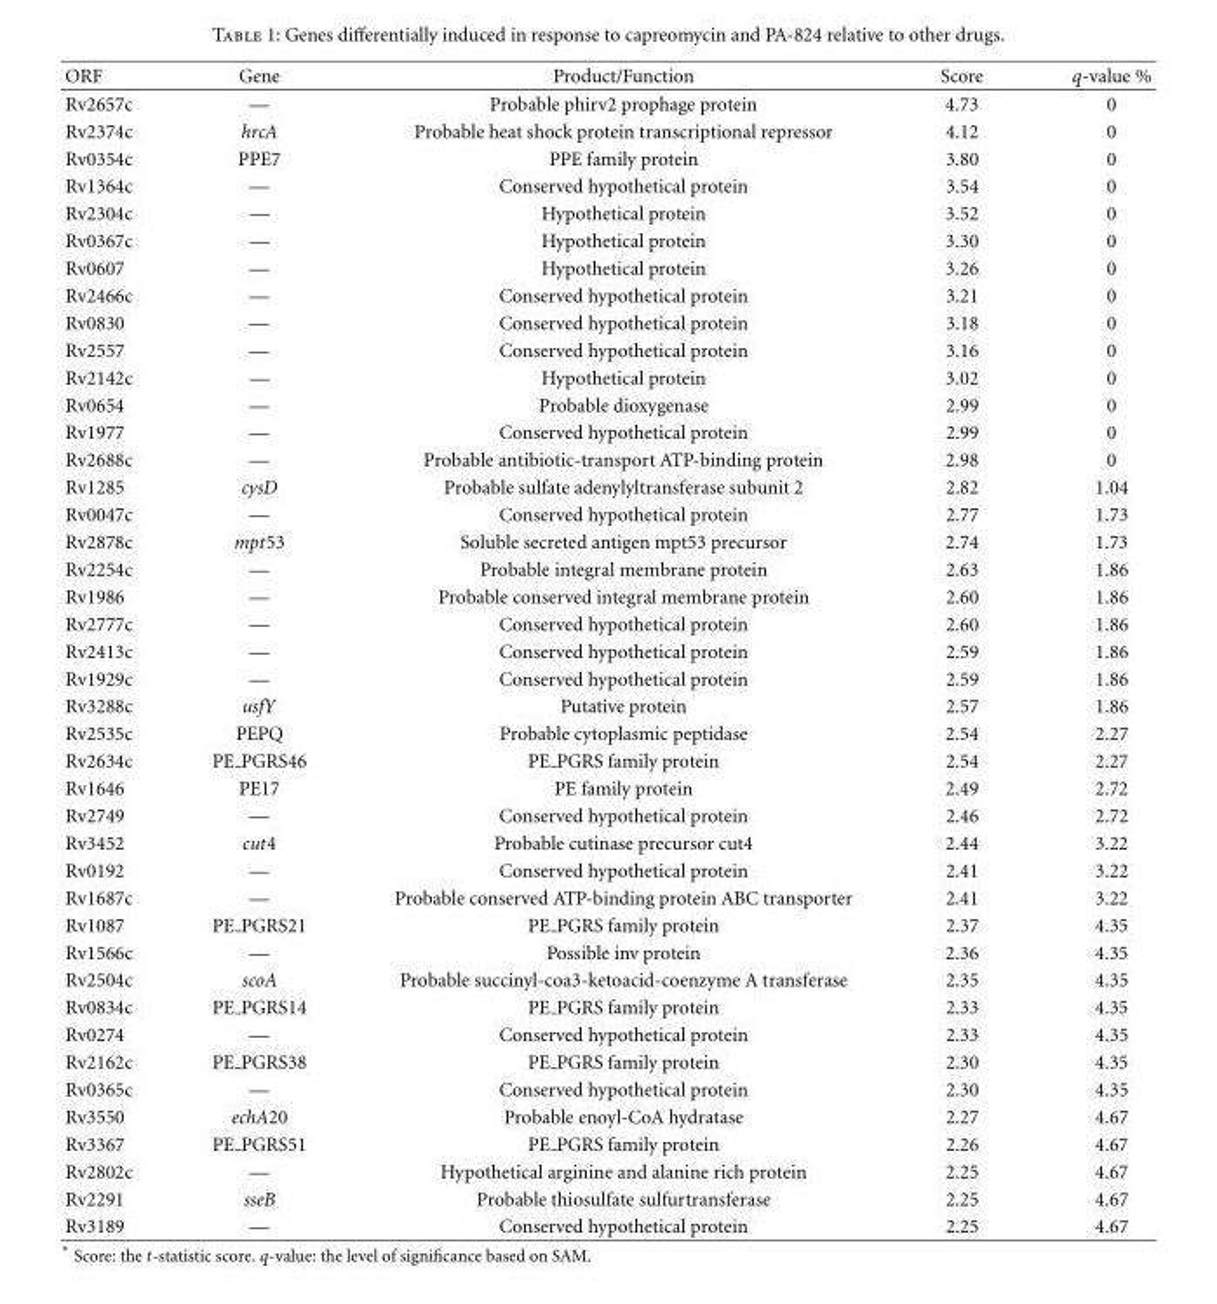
<table><thead><tr><td>ORF</td><td>Gene</td><td>Product/Function</td><td>Score</td><td>q-value %</td></tr></thead><tbody><tr><td>Rv2657c</td><td>—</td><td>Probable phirv2 prophage protein</td><td>4.73</td><td>0</td></tr><tr><td>Rv2374c</td><td>hrcA</td><td>Probable heat shock protein transcriptional repressor</td><td>4.12</td><td>0</td></tr><tr><td>Rv0354c</td><td>PPE7</td><td>PPE family protein</td><td>3.80</td><td>0</td></tr><tr><td>Rv1364c</td><td>—</td><td>Conserved hypothetical protein</td><td>3.54</td><td>0</td></tr><tr><td>Rv2304c</td><td>—</td><td>Hypothetical protein</td><td>3.52</td><td>0</td></tr><tr><td>Rv0367c</td><td>—</td><td>Hypothetical protein</td><td>3.30</td><td>0</td></tr><tr><td>Rv0607</td><td>—</td><td>Hypothetical protein</td><td>3.26</td><td>0</td></tr><tr><td>Rv2466c</td><td>—</td><td>Conserved hypothetical protein</td><td>3.21</td><td>0</td></tr><tr><td>Rv0830</td><td>—</td><td>Conserved hypothetical protein</td><td>3.18</td><td>0</td></tr><tr><td>Rv2557</td><td>—</td><td>Conserved hypothetical protein</td><td>3.16</td><td>0</td></tr><tr><td>Rv2142c</td><td>—</td><td>Hypothetical protein</td><td>3.02</td><td>0</td></tr><tr><td>Rv0654</td><td>—</td><td>Probable dioxygenase</td><td>2.99</td><td>0</td></tr><tr><td>Rv1977</td><td>—</td><td>Conserved hypothetical protein</td><td>2.99</td><td>0</td></tr><tr><td>Rv2688c</td><td>—</td><td>Probable antibiotic-transport ATP-binding protein</td><td>2.98</td><td>0</td></tr><tr><td>Rv1285</td><td>cysD</td><td>Probable sulfate adenylyltransferase subunit 2</td><td>2.82</td><td>1.04</td></tr><tr><td>Rv0047c</td><td>—</td><td>Conserved hypothetical protein</td><td>2.77</td><td>1.73</td></tr><tr><td>Rv2878c</td><td>mpt53</td><td>Soluble secreted antigen mpt53 precursor</td><td>2.74</td><td>1.73</td></tr><tr><td>Rv2254c</td><td>—</td><td>Probable integral membrane protein</td><td>2.63</td><td>1.86</td></tr><tr><td>Rv1986</td><td>—</td><td>Probable conserved integral membrane protein</td><td>2.60</td><td>1.86</td></tr><tr><td>Rv2777c</td><td>—</td><td>Conserved hypothetical protein</td><td>2.60</td><td>1.86</td></tr><tr><td>Rv2413c</td><td>—</td><td>Conserved hypothetical protein</td><td>2.59</td><td>1.86</td></tr><tr><td>Rv1929c</td><td>—</td><td>Conserved hypothetical protein</td><td>2.59</td><td>1.86</td></tr><tr><td>Rv3288c</td><td>usfY</td><td>Putative protein</td><td>2.57</td><td>1.86</td></tr><tr><td>Rv2535c</td><td>PEPQ</td><td>Probable cytoplasmic peptidase</td><td>2.54</td><td>2.27</td></tr><tr><td>Rv2634c</td><td>PE PGRS46</td><td>PE PGRS family protein</td><td>2.54</td><td>2.27</td></tr><tr><td>Rv1646</td><td>PE17</td><td>PE family protein</td><td>2.49</td><td>2.72</td></tr><tr><td>Rv2749</td><td>—</td><td>Conserved hypothetical protein</td><td>2.46</td><td>2.72</td></tr><tr><td>Rv3452</td><td>cut4</td><td>Probable cutinase precursor cut4</td><td>2.44</td><td>3.22</td></tr><tr><td>Rv0192</td><td>—</td><td>Conserved hypothetical protein</td><td>2.41</td><td>3.22</td></tr><tr><td>Rv1687c</td><td>—</td><td>Probable conserved ATP-binding protein ABC transporter</td><td>2.41</td><td>3.22</td></tr><tr><td>Rv1087</td><td>PE PGRS21</td><td>PE PGRS family protein</td><td>2.37</td><td>4.35</td></tr><tr><td>Rv1566c</td><td>—</td><td>Possible inv protein</td><td>2.36</td><td>4.35</td></tr><tr><td>Rv2504c</td><td>scoA</td><td>Probable succinyl-coa3-ketoacid-coenzyme A transferase</td><td>2.35</td><td>4.35</td></tr><tr><td>Rv0834c</td><td>PE PGRS14</td><td>PE PGRS family protein</td><td>2.33</td><td>4.35</td></tr><tr><td>Rv0274</td><td>—</td><td>Conserved hypothetical protein</td><td>2.33</td><td>4.35</td></tr><tr><td>Rv2162c</td><td>PE PGRS38</td><td>PE PGRS family protein</td><td>2.30</td><td>4.35</td></tr><tr><td>Rv0365c</td><td>—</td><td>Conserved hypothetical protein</td><td>2.30</td><td>4.35</td></tr><tr><td>Rv3550</td><td>echA20</td><td>Probable enoyl-CoA hydratase</td><td>2.27</td><td>4.67</td></tr><tr><td>Rv3367</td><td>PE PGRS51</td><td>PE PGRS family protein</td><td>2.26</td><td>4.67</td></tr><tr><td>Rv2802c</td><td>—</td><td>Hypothetical arginine and alanine rich protein</td><td>2.25</td><td>4.67</td></tr><tr><td>Rv2291</td><td>sseB</td><td>Probable thiosulfate sulfurtransferase</td><td>2.25</td><td>4.67</td></tr><tr><td>Rv3189</td><td>—</td><td>Conserved hypothetical protein</td><td>2.25</td><td>4.67</td></tr></tbody></table>